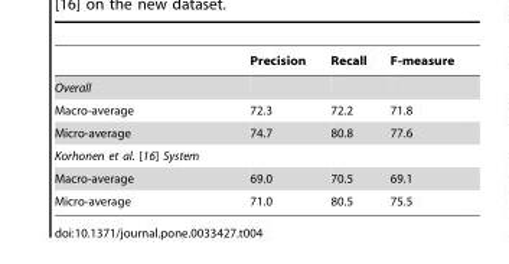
<table><thead><tr><td></td><td>Precision</td><td>Recall</td><td>F-measure</td></tr></thead><tbody><tr><td colspan="4">Overall</td></tr><tr><td>Macro-average</td><td>72.3</td><td>72.2</td><td>71.8</td></tr><tr><td>Micro-average</td><td>74.7</td><td>80.8</td><td>77.6</td></tr><tr><td colspan="4">Korhonen et al. [16] System</td></tr><tr><td>Macro-average</td><td>69.0</td><td>70.5</td><td>69.1</td></tr><tr><td>Micro-average</td><td>71.0</td><td>80.5</td><td>75.5</td></tr></tbody></table>